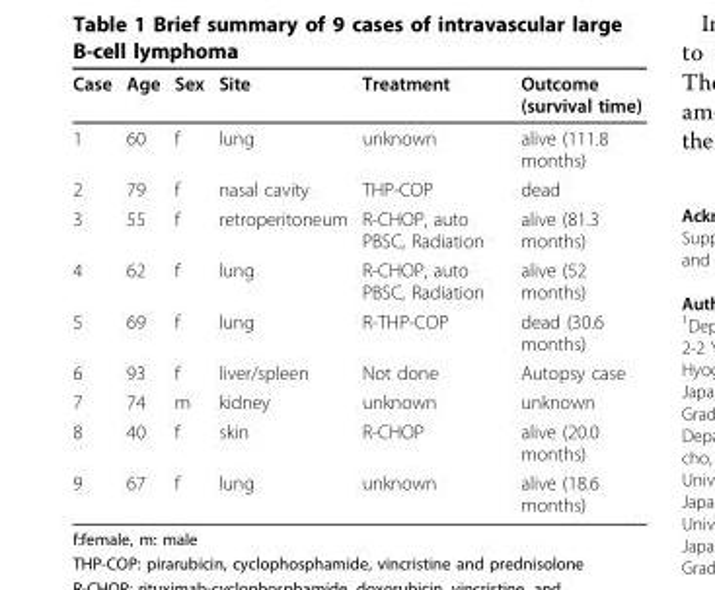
<table><thead><tr><td>Case</td><td>Age</td><td>Sex</td><td>Site</td><td>Treatment</td><td>Outcome (survival time)</td></tr></thead><tbody><tr><td>1</td><td>60</td><td>f</td><td>lung</td><td>unknown</td><td>alive (111.8 months)</td></tr><tr><td>2</td><td>79</td><td>f</td><td>nasal cavity</td><td>THP-COP</td><td>dead</td></tr><tr><td>3</td><td>55</td><td>f</td><td>retroperitoneum</td><td>R-CHOP, auto PBSC, Radiation</td><td>alive (81.3 months)</td></tr><tr><td>4</td><td>62</td><td>f</td><td>lung</td><td>R-CHOP, auto PBSC, Radiation</td><td>alive (52 months)</td></tr><tr><td>5</td><td>69</td><td>f</td><td>lung</td><td>R-THP-COP</td><td>dead (30.6 months)</td></tr><tr><td>6</td><td>93</td><td>f</td><td>liver/spleen</td><td>Not done</td><td>Autopsy case</td></tr><tr><td>7</td><td>74</td><td>m</td><td>kidney</td><td>unknown</td><td>unknown</td></tr><tr><td>8</td><td>40</td><td>f</td><td>skin</td><td>R-CHOP</td><td>alive (20.0 months)</td></tr><tr><td>9</td><td>67</td><td>f</td><td>lung</td><td>unknown</td><td>alive (18.6 months)</td></tr></tbody></table>